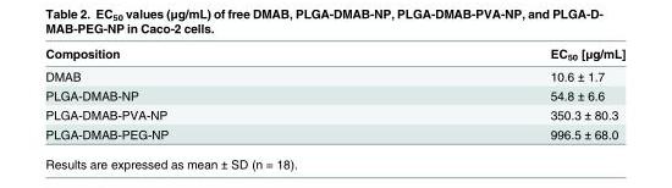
<table><thead><tr><td>Composition</td><td>EC<sub>50</sub> [μg/mL]</td></tr></thead><tbody><tr><td>DMAB</td><td>10.6 ± 1.7</td></tr><tr><td>PLGA-DMAB-NP</td><td>54.8 ± 6.6</td></tr><tr><td>PLGA-DMAB-PVA-NP</td><td>350.3 ± 80.3</td></tr><tr><td>PLGA-DMAB-PEG-NP</td><td>996.5 ± 68.0</td></tr></tbody></table>